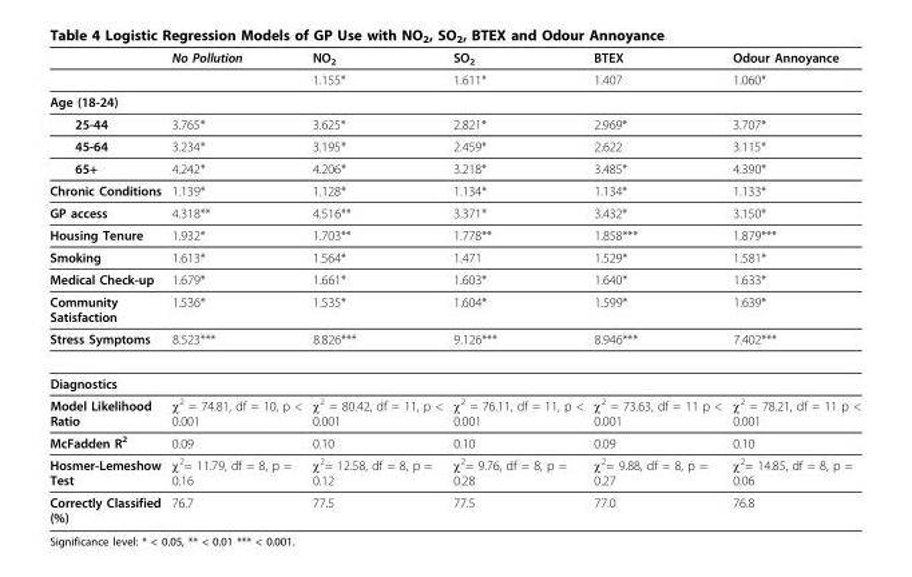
<table><thead><tr><td></td><td>No Pollution</td><td>NO<sub>2</sub></td><td>SO<sub>2</sub></td><td>BTEX</td><td>Odour Annoyance</td></tr></thead><tbody><tr><td></td><td></td><td>1.155*</td><td>1.611*</td><td>1.407</td><td>1.060*</td></tr><tr><td colspan="6">Age (18-24)</td></tr><tr><td>25-44</td><td>3.765*</td><td>3.625*</td><td>2.821*</td><td>2.969*</td><td>3.707*</td></tr><tr><td>45-64</td><td>3.234*</td><td>3.195*</td><td>2.459*</td><td>2.622</td><td>3.115*</td></tr><tr><td>65+</td><td>4.242*</td><td>4.206*</td><td>3.218*</td><td>3.485*</td><td>4.390*</td></tr><tr><td>Chronic Conditions</td><td>1.139*</td><td>1.128*</td><td>1.134*</td><td>1.134*</td><td>1.133*</td></tr><tr><td>GP access</td><td>4.318**</td><td>4.516**</td><td>3.371*</td><td>3.432*</td><td>3.150*</td></tr><tr><td>Housing Tenure</td><td>1.932*</td><td>1.703**</td><td>1.778**</td><td>1.858***</td><td>1.879***</td></tr><tr><td>Smoking</td><td>1.613*</td><td>1.564*</td><td>1.471</td><td>1.529*</td><td>1.581*</td></tr><tr><td>Medical Check-up</td><td>1.679*</td><td>1.661*</td><td>1.603*</td><td>1.640*</td><td>1.633*</td></tr><tr><td>Community Satisfaction</td><td>1.536*</td><td>1.535*</td><td>1.604*</td><td>1.599*</td><td>1.639*</td></tr><tr><td>Stress Symptoms</td><td>8.523***</td><td>8.826***</td><td>9.126***</td><td>8.946***</td><td>7.402***</td></tr><tr><td colspan="6">Diagnostics</td></tr><tr><td>Model Likelihood Ratio</td><td>χ2 = 74.81, df = 10, p &lt; 0.001</td><td>χ2 = 80.42, df = 11, p &lt; 0.001</td><td>χ2 = 76.11, df = 11, p &lt; 0.001</td><td>χ2 = 73.63, df = 11 p &lt; 0.001</td><td>χ2 = 78.21, df = 11 p &lt; 0.001</td></tr><tr><td>McFadden R2</td><td>0.09</td><td>0.10</td><td>0.10</td><td>0.09</td><td>0.10</td></tr><tr><td>Hosmer-Lemeshow Test</td><td>χ2= 11.79, df = 8, p = 0.16</td><td>χ2= 12.58, df = 8, p = 0.12</td><td>χ2= 9.76, df = 8, p = 0.28</td><td>χ2= 9.88, df = 8, p = 0.27</td><td>χ2= 14.85, df = 8, p = 0.06</td></tr><tr><td>Correctly Classified (%)</td><td>76.7</td><td>77.5</td><td>77.5</td><td>77.0</td><td>76.8</td></tr></tbody></table>